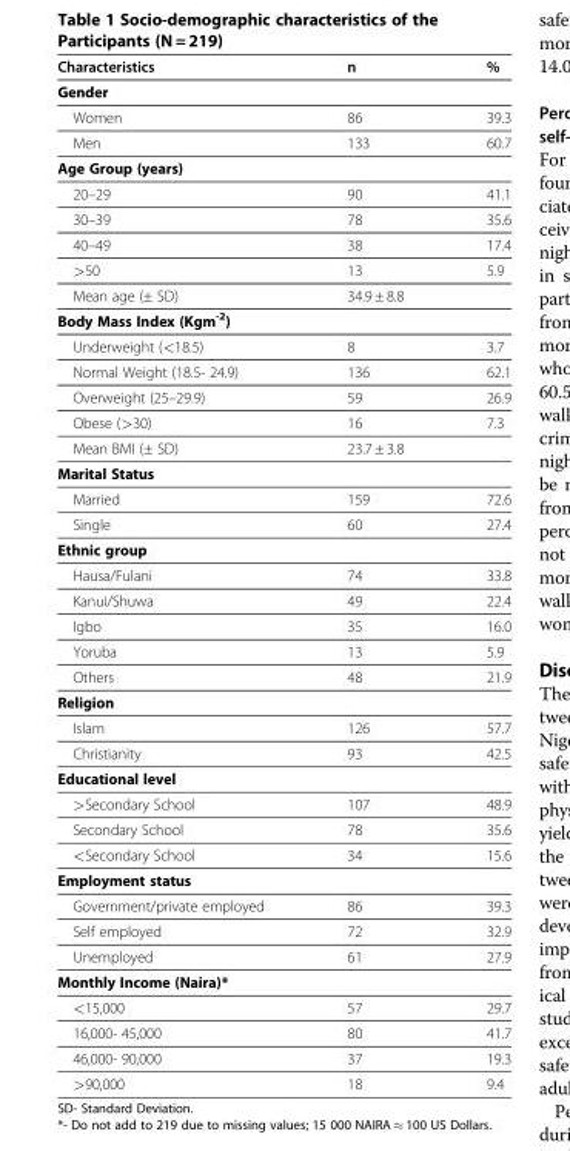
<table><thead><tr><td>Characteristics</td><td>n</td><td>%</td></tr></thead><tbody><tr><td colspan="3">Gender</td></tr><tr><td>Women</td><td>86</td><td>39.3</td></tr><tr><td>Men</td><td>133</td><td>60.7</td></tr><tr><td colspan="3">Age Group (years)</td></tr><tr><td>20–29</td><td>90</td><td>41.1</td></tr><tr><td>30–39</td><td>78</td><td>35.6</td></tr><tr><td>40–49</td><td>38</td><td>17.4</td></tr><tr><td>&gt;50</td><td>13</td><td>5.9</td></tr><tr><td>Mean age (± SD)</td><td>34.9 ± 8.8</td><td></td></tr><tr><td colspan="3">Body Mass Index (Kgm<sup>-2</sup>)</td></tr><tr><td>Underweight (&lt;18.5)</td><td>8</td><td>3.7</td></tr><tr><td>Normal Weight (18.5- 24.9)</td><td>136</td><td>62.1</td></tr><tr><td>Overweight (25–29.9)</td><td>59</td><td>26.9</td></tr><tr><td>Obese (&gt;30)</td><td>16</td><td>7.3</td></tr><tr><td>Mean BMI (± SD)</td><td>23.7 ± 3.8</td><td></td></tr><tr><td colspan="3">Marital Status</td></tr><tr><td>Married</td><td>159</td><td>72.6</td></tr><tr><td>Single</td><td>60</td><td>27.4</td></tr><tr><td colspan="3">Ethnic group</td></tr><tr><td>Hausa/Fulani</td><td>74</td><td>33.8</td></tr><tr><td>Kanui/Shuwa</td><td>49</td><td>22.4</td></tr><tr><td>Igbo</td><td>35</td><td>16.0</td></tr><tr><td>Yoruba</td><td>13</td><td>5.9</td></tr><tr><td>Others</td><td>48</td><td>21.9</td></tr><tr><td colspan="3">Religion</td></tr><tr><td>Islam</td><td>126</td><td>57.7</td></tr><tr><td>Christianity</td><td>93</td><td>42.5</td></tr><tr><td colspan="3">Educational level</td></tr><tr><td>&gt;Secondary School</td><td>107</td><td>48.9</td></tr><tr><td>Secondary School</td><td>78</td><td>35.6</td></tr><tr><td>&lt;Secondary School</td><td>34</td><td>15.6</td></tr><tr><td colspan="3">Employment status</td></tr><tr><td>Government/private employed</td><td>86</td><td>39.3</td></tr><tr><td>Self employed</td><td>72</td><td>32.9</td></tr><tr><td>Unemployed</td><td>61</td><td>27.9</td></tr><tr><td colspan="3">Monthly Income (Naira)*</td></tr><tr><td>&lt;15,000</td><td>57</td><td>29.7</td></tr><tr><td>16,000- 45,000</td><td>80</td><td>41.7</td></tr><tr><td>46,000- 90,000</td><td>37</td><td>19.3</td></tr><tr><td>&gt;90,000</td><td>18</td><td>9.4</td></tr></tbody></table>